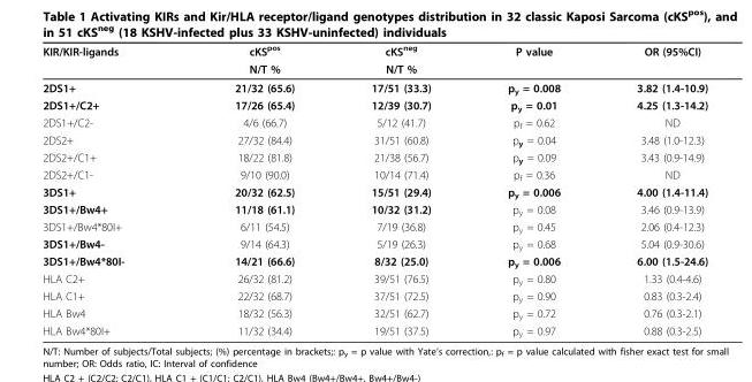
<table><thead><tr><td rowspan="2">KIR/KIR-ligands</td><td rowspan="2">cKS<sup>pos</sup> N/T %</td><td rowspan="2">cKS<sup>neg</sup> N/T %</td><td rowspan="2">P value</td><td rowspan="2">OR (95%CI)</td></tr><tr></tr></thead><tbody><tr><td>2DS1+</td><td>21/32 (65.6)</td><td>17/51 (33.3)</td><td>p<sub>y</sub> = 0.008</td><td>3.82 (1.4-10.9)</td></tr><tr><td>2DS1+/C2+</td><td>17/26 (65.4)</td><td>12/39 (30.7)</td><td>p<sub>y</sub> = 0.01</td><td>4.25 (1.3-14.2)</td></tr><tr><td>2DS1+/C2-</td><td>4/6 (66.7)</td><td>5/12 (41.7)</td><td>p<sub>f</sub> = 0.62</td><td>ND</td></tr><tr><td>2DS2+</td><td>27/32 (84.4)</td><td>31/51 (60.8)</td><td>p<sub>y</sub> = 0.04</td><td>3.48 (1.0-12.3)</td></tr><tr><td>2DS2+/C1+</td><td>18/22 (81.8)</td><td>21/38 (56.7)</td><td>p<sub>y</sub> = 0.09</td><td>3.43 (0.9-14.9)</td></tr><tr><td>2DS2+/C1-</td><td>9/10 (90.0)</td><td>10/14 (71.4)</td><td>p<sub>f</sub> = 0.36</td><td>ND</td></tr><tr><td>3DS1+</td><td>20/32 (62.5)</td><td>15/51 (29.4)</td><td>p<sub>y</sub> = 0.006</td><td>4.00 (1.4-11.4)</td></tr><tr><td>3DS1+/Bw4+</td><td>11/18 (61.1)</td><td>10/32 (31.2)</td><td>p<sub>y</sub> = 0.08</td><td>3.46 (0.9-13.9)</td></tr><tr><td>3DS1+/Bw4*80I+</td><td>6/11 (54.5)</td><td>7/19 (36.8)</td><td>p<sub>y</sub> = 0.45</td><td>2.06 (0.4-12.3)</td></tr><tr><td>3DS1+/Bw4-</td><td>9/14 (64.3)</td><td>5/19 (26.3)</td><td>p<sub>y</sub> = 0.68</td><td>5.04 (0.9-30.6)</td></tr><tr><td>3DS1+/Bw4*80I-</td><td>14/21 (66.6)</td><td>8/32 (25.0)</td><td>p<sub>y</sub> = 0.006</td><td>6.00 (1.5-24.6)</td></tr><tr><td>HLA C2+</td><td>26/32 (81.2)</td><td>39/51 (76.5)</td><td>p<sub>y</sub> = 0.80</td><td>1.33 (0.4-4.6)</td></tr><tr><td>HLA C1+</td><td>22/32 (68.7)</td><td>37/51 (72.5)</td><td>p<sub>y</sub> = 0.90</td><td>0.83 (0.3-2.4)</td></tr><tr><td>HLA Bw4</td><td>18/32 (56.3)</td><td>32/51 (62.7)</td><td>p<sub>y</sub> = 0.72</td><td>0.76 (0.3-2.1)</td></tr><tr><td>HLA Bw4*80I+</td><td>11/32 (34.4)</td><td>19/51 (37.5)</td><td>p<sub>y</sub> = 0.97</td><td>0.88 (0.3-2.5)</td></tr></tbody></table>